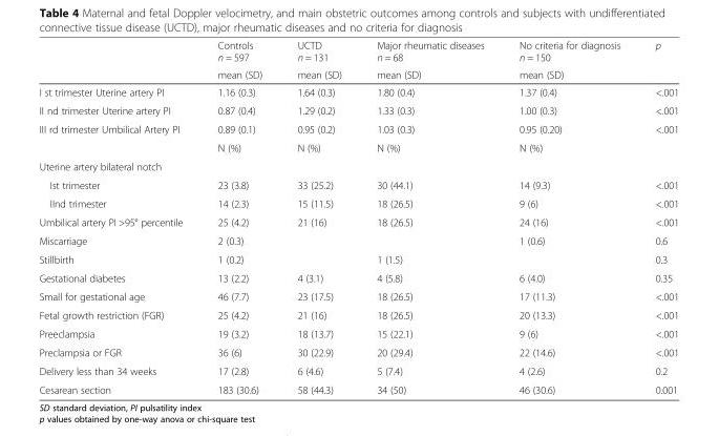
<table><thead><tr><td rowspan="2"></td><td rowspan="2">Controls n = 597 mean (SD)</td><td rowspan="2">UCTD n = 131 mean (SD)</td><td rowspan="2">Major rheumatic diseases n = 68 mean (SD)</td><td rowspan="2">No criteria for diagnosis n = 150 mean (SD)</td><td rowspan="2">p</td></tr><tr></tr></thead><tbody><tr><td>I st trimester Uterine artery PI</td><td>1.16 (0.3)</td><td>1.64 (0.3)</td><td>1.80 (0.4)</td><td>1.37 (0.4)</td><td>&lt;.001</td></tr><tr><td>II nd trimester Uterine artery PI</td><td>0.87 (0.4)</td><td>1.29 (0.2)</td><td>1.33 (0.3)</td><td>1.00 (0.3)</td><td>&lt;.001</td></tr><tr><td rowspan="2">III rd trimester Umbilical Artery PI</td><td>0.89 (0.1)</td><td>0.95 (0.2)</td><td>1.03 (0.3)</td><td>0.95 (0.20)</td><td>&lt;.001</td></tr><tr><td>N (%)</td><td>N (%)</td><td>N (%)</td><td>N (%)</td><td></td></tr><tr><td colspan="6">Uterine artery bilateral notch</td></tr><tr><td>Ist trimester</td><td>23 (3.8)</td><td>33 (25.2)</td><td>30 (44.1)</td><td>14 (9.3)</td><td>&lt;.001</td></tr><tr><td>IInd trimester</td><td>14 (2.3)</td><td>15 (11.5)</td><td>18 (26.5)</td><td>9 (6)</td><td>&lt;.001</td></tr><tr><td>Umbilical artery PI &gt;95° percentile</td><td>25 (4.2)</td><td>21 (16)</td><td>18 (26.5)</td><td>24 (16)</td><td>&lt;.001</td></tr><tr><td>Miscarriage</td><td>2 (0.3)</td><td></td><td></td><td>1 (0.6)</td><td>0.6</td></tr><tr><td>Stillbirth</td><td>1 (0.2)</td><td></td><td>1 (1.5)</td><td></td><td>0.3</td></tr><tr><td>Gestational diabetes</td><td>13 (2.2)</td><td>4 (3.1)</td><td>4 (5.8)</td><td>6 (4.0)</td><td>0.35</td></tr><tr><td>Small for gestational age</td><td>46 (7.7)</td><td>23 (17.5)</td><td>18 (26.5)</td><td>17 (11.3)</td><td>&lt;.001</td></tr><tr><td>Fetal growth restriction (FGR)</td><td>25 (4.2)</td><td>21 (16)</td><td>18 (26.5)</td><td>20 (13.3)</td><td>&lt;.001</td></tr><tr><td>Preeclampsia</td><td>19 (3.2)</td><td>18 (13.7)</td><td>15 (22.1)</td><td>9 (6)</td><td>&lt;.001</td></tr><tr><td>Preclampsia or FGR</td><td>36 (6)</td><td>30 (22.9)</td><td>20 (29.4)</td><td>22 (14.6)</td><td>&lt;.001</td></tr><tr><td>Delivery less than 34 weeks</td><td>17 (2.8)</td><td>6 (4.6)</td><td>5 (7.4)</td><td>4 (2.6)</td><td>0.2</td></tr><tr><td>Cesarean section</td><td>183 (30.6)</td><td>58 (44.3)</td><td>34 (50)</td><td>46 (30.6)</td><td>0.001</td></tr></tbody></table>